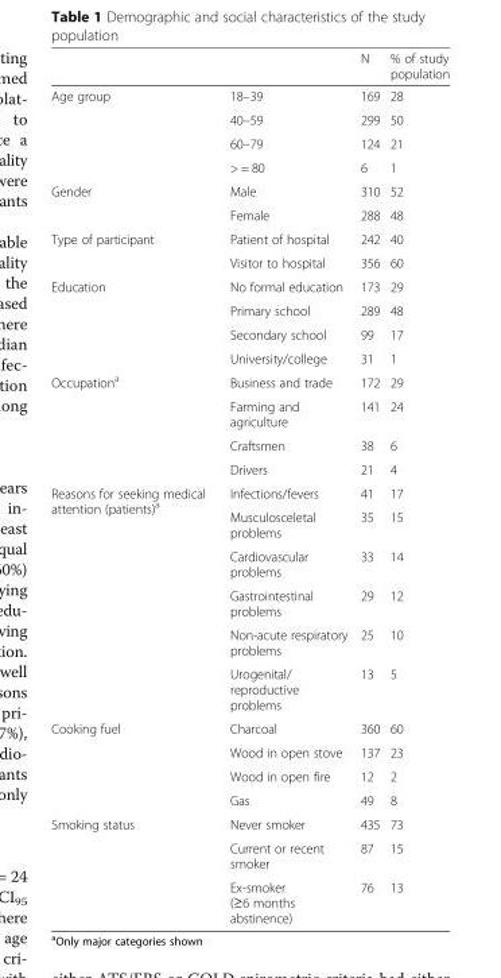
<table><thead><tr><td></td><td></td><td>N</td><td>% of study population</td></tr></thead><tbody><tr><td rowspan="4">Age group</td><td>18–39</td><td>169</td><td>28</td></tr><tr><td>40–59</td><td>299</td><td>50</td></tr><tr><td>60–79</td><td>124</td><td>21</td></tr><tr><td>&gt; = 80</td><td>6</td><td>1</td></tr><tr><td rowspan="2">Gender</td><td>Male</td><td>310</td><td>52</td></tr><tr><td>Female</td><td>288</td><td>48</td></tr><tr><td rowspan="2">Type of participant</td><td>Patient of hospital</td><td>242</td><td>40</td></tr><tr><td>Visitor to hospital</td><td>356</td><td>60</td></tr><tr><td rowspan="4">Education</td><td>No formal education</td><td>173</td><td>29</td></tr><tr><td>Primary school</td><td>289</td><td>48</td></tr><tr><td>Secondary school</td><td>99</td><td>17</td></tr><tr><td>University/college</td><td>31</td><td>1</td></tr><tr><td rowspan="4">Occupation<sup>a</sup></td><td>Business and trade</td><td>172</td><td>29</td></tr><tr><td>Farming and agriculture</td><td>141</td><td>24</td></tr><tr><td>Craftsmen</td><td>38</td><td>6</td></tr><tr><td>Drivers</td><td>21</td><td>4</td></tr><tr><td rowspan="6">Reasons for seeking medical attention (patients)<sup>a</sup></td><td>Infections/fevers</td><td>41</td><td>17</td></tr><tr><td>Musculosceletal problems</td><td>35</td><td>15</td></tr><tr><td>Cardiovascular problems</td><td>33</td><td>14</td></tr><tr><td>Gastrointestinal problems</td><td>29</td><td>12</td></tr><tr><td>Non-acute respiratory problems</td><td>25</td><td>10</td></tr><tr><td>Urogenital/ reproductive problems</td><td>13</td><td>5</td></tr><tr><td rowspan="4">Cooking fuel</td><td>Charcoal</td><td>360</td><td>60</td></tr><tr><td>Wood in open stove</td><td>137</td><td>23</td></tr><tr><td>Wood in open fire</td><td>12</td><td>2</td></tr><tr><td>Gas</td><td>49</td><td>8</td></tr><tr><td rowspan="3">Smoking status</td><td>Never smoker</td><td>435</td><td>73</td></tr><tr><td>Current or recent smoker</td><td>87</td><td>15</td></tr><tr><td>Ex-smoker (≥6 months abstinence)</td><td>76</td><td>13</td></tr></tbody></table>